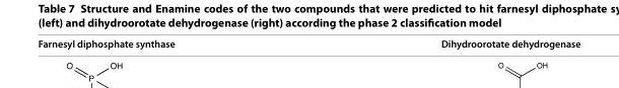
<table><thead><tr><td>Farnesyl diphosphate synthase</td><td>Dihydroorotate dehydrogenase</td></tr></thead><tbody></tbody></table>